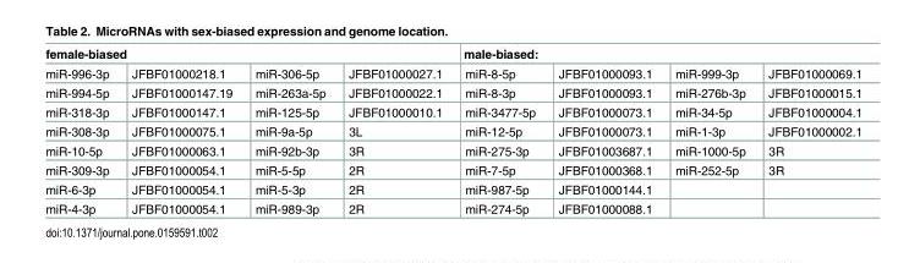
<table><thead><tr><td colspan="4">female-biased</td><td colspan="4">male-biased:</td></tr><tr><td>miR-996-3p</td><td>JFBF01000218.1</td><td>miR-306-5p</td><td>JFBF01000027.1</td><td>miR-8-5p</td><td>JFBF01000093.1</td><td>miR-999-3p</td><td>JFBF01000069.1</td></tr></thead><tbody><tr><td>miR-994-5p</td><td>JFBF01000147.19</td><td>miR-263a-5p</td><td>JFBF01000022.1</td><td>miR-8-3p</td><td>JFBF01000093.1</td><td>miR-276b-3p</td><td>JFBF01000015.1</td></tr><tr><td>miR-318-3p</td><td>JFBF01000147.1</td><td>miR-125-5p</td><td>JFBF01000010.1</td><td>miR-3477-5p</td><td>JFBF01000073.1</td><td>miR-34-5p</td><td>JFBF01000004.1</td></tr><tr><td>miR-308-3p</td><td>JFBF01000075.1</td><td>miR-9a-5p</td><td>3L</td><td>miR-12-5p</td><td>JFBF01000073.1</td><td>miR-1-3p</td><td>JFBF01000002.1</td></tr><tr><td>miR-10-5p</td><td>JFBF01000063.1</td><td>miR-92b-3p</td><td>3R</td><td>miR-275-3p</td><td>JFBF01003687.1</td><td>miR-1000-5p</td><td>3R</td></tr><tr><td>miR-309-3p</td><td>JFBF01000054.1</td><td>miR-5-5p</td><td>2R</td><td>miR-7-5p</td><td>JFBF01000368.1</td><td>miR-252-5p</td><td>3R</td></tr><tr><td>miR-6-3p</td><td>JFBF01000054.1</td><td>miR-5-3p</td><td>2R</td><td>miR-987-5p</td><td>JFBF01000144.1</td><td></td><td></td></tr><tr><td>miR-4-3p</td><td>JFBF01000054.1</td><td>miR-989-3p</td><td>2R</td><td>miR-274-5p</td><td>JFBF01000088.1</td><td></td><td></td></tr></tbody></table>